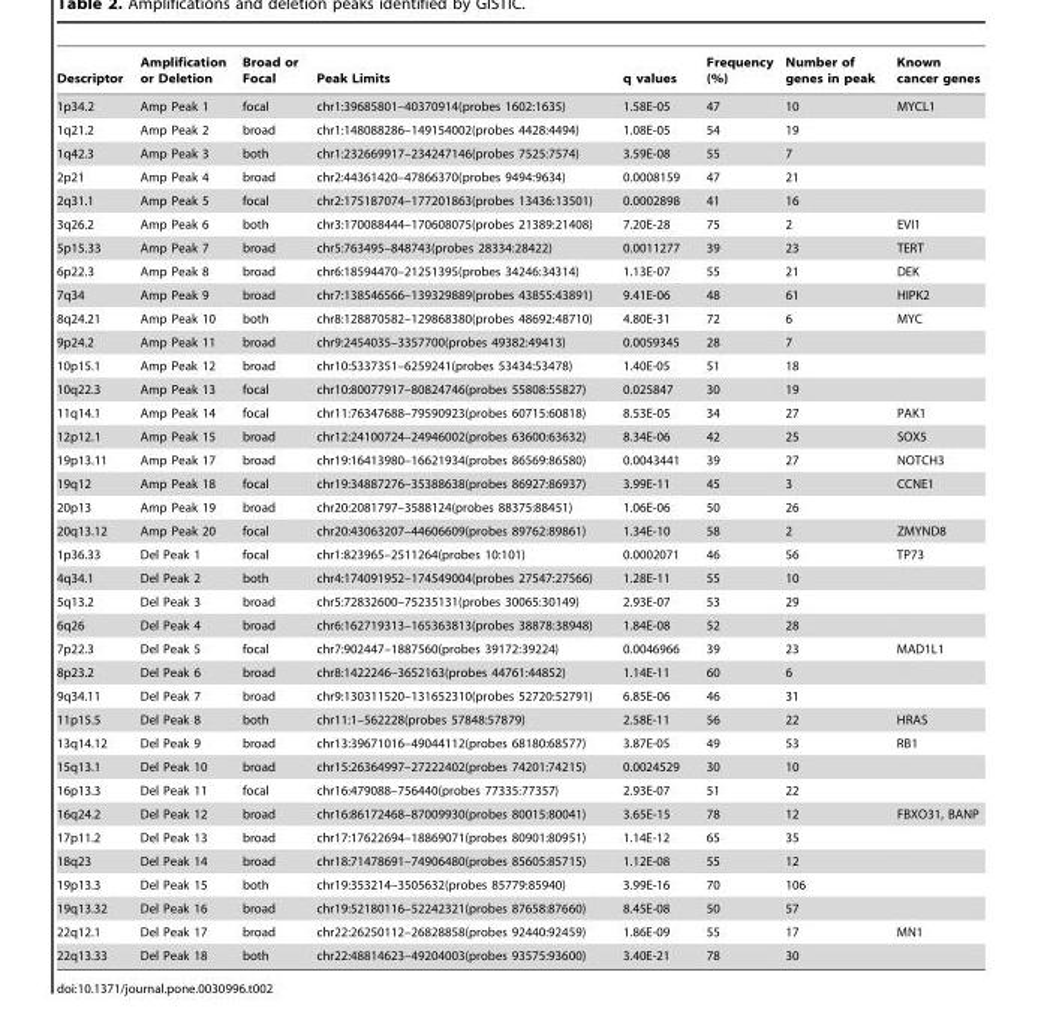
<table><thead><tr><td>Descriptor</td><td>Amplification or Deletion</td><td>Broad or Focal</td><td>Peak Limits</td><td>q values</td><td>Frequency (%)</td><td>Number of genes in peak</td><td>Known cancer genes</td></tr></thead><tbody><tr><td>1p34.2</td><td>Amp Peak 1</td><td>focal</td><td>chr1:39685801–40370914(probes 1602:1635)</td><td>1.58E-05</td><td>47</td><td>10</td><td>MYCL1</td></tr><tr><td>1q21.2</td><td>Amp Peak 2</td><td>broad</td><td>chr1:148088286–149154002(probes 4428:4494)</td><td>1.08E-05</td><td>54</td><td>19</td><td></td></tr><tr><td>1q42.3</td><td>Amp Peak 3</td><td>both</td><td>chr1:232669917–234247146(probes 7525:7574)</td><td>3.59E-08</td><td>55</td><td>7</td><td></td></tr><tr><td>2p21</td><td>Amp Peak 4</td><td>broad</td><td>chr2:44361420–47866370(probes 9494:9634)</td><td>0.0008159</td><td>47</td><td>21</td><td></td></tr><tr><td>2q31.1</td><td>Amp Peak 5</td><td>focal</td><td>chr2:175187074–177201863(probes 13436:13501)</td><td>0.0002898</td><td>41</td><td>16</td><td></td></tr><tr><td>3q26.2</td><td>Amp Peak 6</td><td>both</td><td>chr3:170088444–170608075(probes 21389:21408)</td><td>7.20E-28</td><td>75</td><td>2</td><td>EVI1</td></tr><tr><td>5p15.33</td><td>Amp Peak 7</td><td>broad</td><td>chr5:763495–848743(probes 28334:28422)</td><td>0.0011277</td><td>39</td><td>23</td><td>TERT</td></tr><tr><td>6p22.3</td><td>Amp Peak 8</td><td>broad</td><td>chr6:18594470–21251395(probes 34246:34314)</td><td>1.13E-07</td><td>55</td><td>21</td><td>DEK</td></tr><tr><td>7q34</td><td>Amp Peak 9</td><td>broad</td><td>chr7:138546566–139329889(probes 43855:43891)</td><td>9.41E-06</td><td>48</td><td>61</td><td>HIPK2</td></tr><tr><td>8q24.21</td><td>Amp Peak 10</td><td>both</td><td>chr8:128870582–129868380(probes 48692:48710)</td><td>4.80E-31</td><td>72</td><td>6</td><td>MYC</td></tr><tr><td>9p24.2</td><td>Amp Peak 11</td><td>broad</td><td>chr9:2454035–3357700(probes 49382:49413)</td><td>0.0059345</td><td>28</td><td>7</td><td></td></tr><tr><td>10p15.1</td><td>Amp Peak 12</td><td>broad</td><td>chr10:5337351–6259241(probes 53434:53478)</td><td>1.40E-05</td><td>51</td><td>18</td><td></td></tr><tr><td>10q22.3</td><td>Amp Peak 13</td><td>focal</td><td>chr10:80077917–80824746(probes 55808:55827)</td><td>0.025847</td><td>30</td><td>19</td><td></td></tr><tr><td>11q14.1</td><td>Amp Peak 14</td><td>focal</td><td>chr11:76347688–79590923(probes 60715:60818)</td><td>8.53E-05</td><td>34</td><td>27</td><td>PAK1</td></tr><tr><td>12p12.1</td><td>Amp Peak 15</td><td>broad</td><td>chr12:24100724–24946002(probes 63600:63632)</td><td>8.34E-06</td><td>42</td><td>25</td><td>SOX5</td></tr><tr><td>19p13.11</td><td>Amp Peak 17</td><td>broad</td><td>chr19:16413980–16621934(probes 86569:86580)</td><td>0.0043441</td><td>39</td><td>27</td><td>NOTCH3</td></tr><tr><td>19q12</td><td>Amp Peak 18</td><td>focal</td><td>chr19:34887276–35388638(probes 86927:86937)</td><td>3.99E-11</td><td>45</td><td>3</td><td>CCNE1</td></tr><tr><td>20p13</td><td>Amp Peak 19</td><td>broad</td><td>chr20:2081797–3588124(probes 88375:88451)</td><td>1.06E-06</td><td>50</td><td>26</td><td></td></tr><tr><td>20q13.12</td><td>Amp Peak 20</td><td>focal</td><td>chr20:43063207–44606609(probes 89762:89861)</td><td>1.34E-10</td><td>58</td><td>2</td><td>ZMYND8</td></tr><tr><td>1p36.33</td><td>Del Peak 1</td><td>focal</td><td>chr1:823965–2511264(probes 10:101)</td><td>0.0002071</td><td>46</td><td>56</td><td>TP73</td></tr><tr><td>4q34.1</td><td>Del Peak 2</td><td>both</td><td>chr4:174091952–174549004(probes 27547:27566)</td><td>1.28E-11</td><td>55</td><td>10</td><td></td></tr><tr><td>5q13.2</td><td>Del Peak 3</td><td>broad</td><td>chr5:72832600–75235131(probes 30065:30149)</td><td>2.93E-07</td><td>53</td><td>29</td><td></td></tr><tr><td>6q26</td><td>Del Peak 4</td><td>broad</td><td>chr6:162719313–165363813(probes 38878:38948)</td><td>1.84E-08</td><td>52</td><td>28</td><td></td></tr><tr><td>7p22.3</td><td>Del Peak 5</td><td>focal</td><td>chr7:902447–1887560(probes 39172:39224)</td><td>0.0046966</td><td>39</td><td>23</td><td>MAD1L1</td></tr><tr><td>8p23.2</td><td>Del Peak 6</td><td>broad</td><td>chr8:1422246–3652163(probes 44761:44852)</td><td>1.14E-11</td><td>60</td><td>6</td><td></td></tr><tr><td>9q34.11</td><td>Del Peak 7</td><td>broad</td><td>chr9:130311520–131652310(probes 52720:52791)</td><td>6.85E-06</td><td>46</td><td>31</td><td></td></tr><tr><td>11p15.5</td><td>Del Peak 8</td><td>both</td><td>chr11:1–562228(probes 57848:57879)</td><td>2.58E-11</td><td>56</td><td>22</td><td>HRAS</td></tr><tr><td>13q14.12</td><td>Del Peak 9</td><td>broad</td><td>chr13:39671016–49044112(probes 68180:68577)</td><td>3.87E-05</td><td>49</td><td>53</td><td>RB1</td></tr><tr><td>15q13.1</td><td>Del Peak 10</td><td>broad</td><td>chr15:26364997–27222402(probes 74201:74215)</td><td>0.0024529</td><td>30</td><td>10</td><td></td></tr><tr><td>16p13.3</td><td>Del Peak 11</td><td>focal</td><td>chr16:479088–756440(probes 77335:77357)</td><td>2.93E-07</td><td>51</td><td>22</td><td></td></tr><tr><td>16q24.2</td><td>Del Peak 12</td><td>broad</td><td>chr16:86172468–87009930(probes 80015:80041)</td><td>3.65E-15</td><td>78</td><td>12</td><td>FBXO31, BANP</td></tr><tr><td>17p11.2</td><td>Del Peak 13</td><td>broad</td><td>chr17:17622694–18869071(probes 80901:80951)</td><td>1.14E-12</td><td>65</td><td>35</td><td></td></tr><tr><td>18q23</td><td>Del Peak 14</td><td>broad</td><td>chr18:71478691–74906480(probes 85605:85715)</td><td>1.12E-08</td><td>55</td><td>12</td><td></td></tr><tr><td>19p13.3</td><td>Del Peak 15</td><td>both</td><td>chr19:353214–3505632(probes 85779:85940)</td><td>3.99E-16</td><td>70</td><td>106</td><td></td></tr><tr><td>19q13.32</td><td>Del Peak 16</td><td>broad</td><td>chr19:52180116–52242321(probes 87658:87660)</td><td>8.45E-08</td><td>50</td><td>57</td><td></td></tr><tr><td>22q12.1</td><td>Del Peak 17</td><td>broad</td><td>chr22:26250112–26828858(probes 92440:92459)</td><td>1.86E-09</td><td>55</td><td>17</td><td>MN1</td></tr><tr><td>22q13.33</td><td>Del Peak 18</td><td>both</td><td>chr22:48814623–49204003(probes 93575:93600)</td><td>3.40E-21</td><td>78</td><td>30</td><td></td></tr></tbody></table>